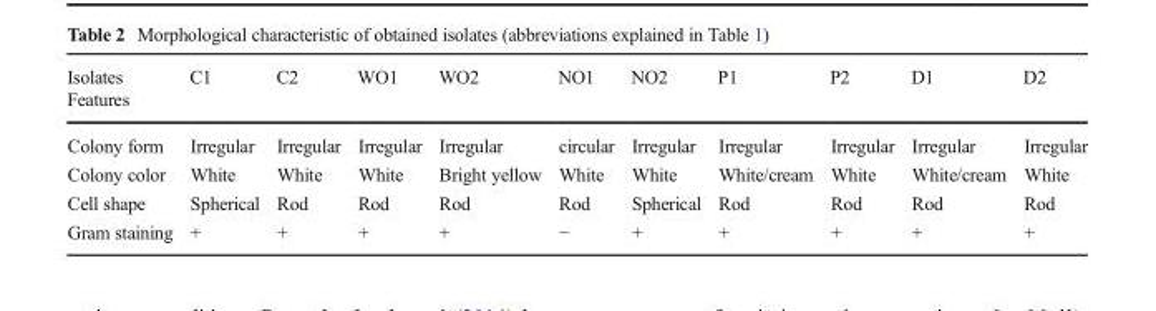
<table><thead><tr><td rowspan="2">Isolates Features</td><td rowspan="2">C1</td><td rowspan="2">C2</td><td rowspan="2">WO1</td><td rowspan="2">WO2</td><td rowspan="2">NO1</td><td rowspan="2">NO2</td><td rowspan="2">P1</td><td rowspan="2">P2</td><td rowspan="2">D1</td><td rowspan="2">D2</td></tr><tr></tr></thead><tbody><tr><td>Colony form</td><td>Irregular</td><td>Irregular</td><td>Irregular</td><td>Irregular</td><td>circular</td><td>Irregular</td><td>Irregular</td><td>Irregular</td><td>Irregular</td><td>Irregular</td></tr><tr><td>Colony color</td><td>White</td><td>White</td><td>White</td><td>Bright yellow</td><td>White</td><td>White</td><td>White/cream</td><td>White</td><td>White/cream</td><td>White</td></tr><tr><td>Cell shape</td><td>Spherical</td><td>Rod</td><td>Rod</td><td>Rod</td><td>Rod</td><td>Spherical</td><td>Rod</td><td>Rod</td><td>Rod</td><td>Rod</td></tr><tr><td>Gram staining</td><td>+</td><td>+</td><td>+</td><td>+</td><td>−</td><td>+</td><td>+</td><td>+</td><td>+</td><td>+</td></tr></tbody></table>